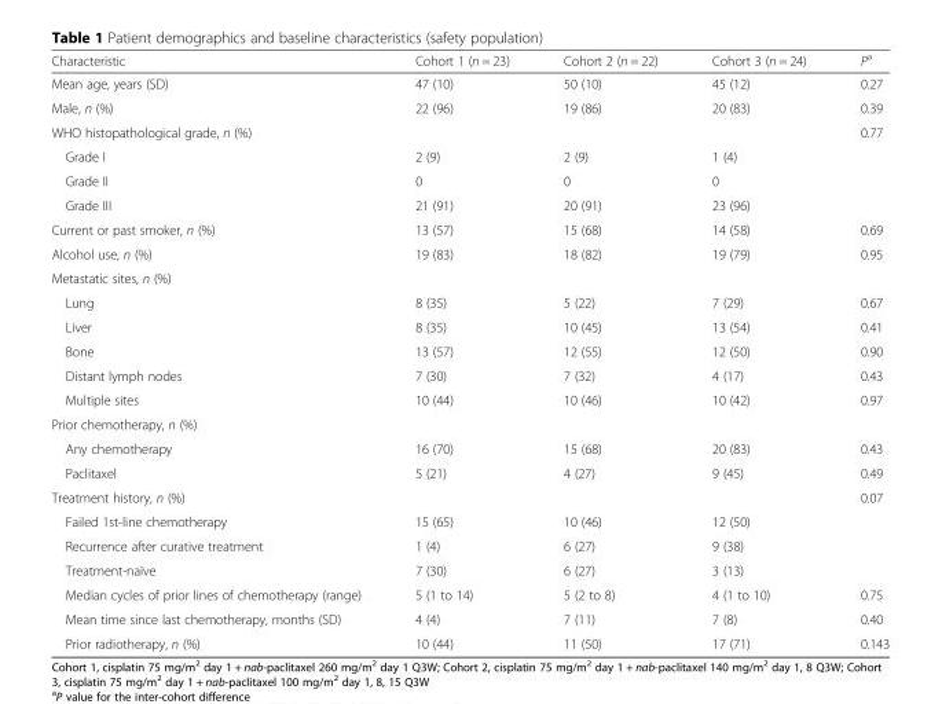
<table><thead><tr><td>Characteristic</td><td>Cohort 1 (n = 23)</td><td>Cohort 2 (n = 22)</td><td>Cohort 3 (n = 24)</td><td>P<sup>a</sup></td></tr></thead><tbody><tr><td>Mean age, years (SD)</td><td>47 (10)</td><td>50 (10)</td><td>45 (12)</td><td>0.27</td></tr><tr><td>Male, n (%)</td><td>22 (96)</td><td>19 (86)</td><td>20 (83)</td><td>0.39</td></tr><tr><td>WHO histopathological grade, n (%)</td><td></td><td></td><td></td><td>0.77</td></tr><tr><td>Grade I</td><td>2 (9)</td><td>2 (9)</td><td>1 (4)</td><td></td></tr><tr><td>Grade II</td><td>0</td><td>0</td><td>0</td><td></td></tr><tr><td>Grade III</td><td>21 (91)</td><td>20 (91)</td><td>23 (96)</td><td></td></tr><tr><td>Current or past smoker, n (%)</td><td>13 (57)</td><td>15 (68)</td><td>14 (58)</td><td>0.69</td></tr><tr><td>Alcohol use, n (%)</td><td>19 (83)</td><td>18 (82)</td><td>19 (79)</td><td>0.95</td></tr><tr><td colspan="5">Metastatic sites, n (%)</td></tr><tr><td>Lung</td><td>8 (35)</td><td>5 (22)</td><td>7 (29)</td><td>0.67</td></tr><tr><td>Liver</td><td>8 (35)</td><td>10 (45)</td><td>13 (54)</td><td>0.41</td></tr><tr><td>Bone</td><td>13 (57)</td><td>12 (55)</td><td>12 (50)</td><td>0.90</td></tr><tr><td>Distant lymph nodes</td><td>7 (30)</td><td>7 (32)</td><td>4 (17)</td><td>0.43</td></tr><tr><td>Multiple sites</td><td>10 (44)</td><td>10 (46)</td><td>10 (42)</td><td>0.97</td></tr><tr><td colspan="5">Prior chemotherapy, n (%)</td></tr><tr><td>Any chemotherapy</td><td>16 (70)</td><td>15 (68)</td><td>20 (83)</td><td>0.43</td></tr><tr><td>Paclitaxel</td><td>5 (21)</td><td>4 (27)</td><td>9 (45)</td><td>0.49</td></tr><tr><td>Treatment history, n (%)</td><td></td><td></td><td></td><td>0.07</td></tr><tr><td>Failed 1st-line chemotherapy</td><td>15 (65)</td><td>10 (46)</td><td>12 (50)</td><td></td></tr><tr><td>Recurrence after curative treatment</td><td>1 (4)</td><td>6 (27)</td><td>9 (38)</td><td></td></tr><tr><td>Treatment-naïve</td><td>7 (30)</td><td>6 (27)</td><td>3 (13)</td><td></td></tr><tr><td>Median cycles of prior lines of chemotherapy (range)</td><td>5 (1 to 14)</td><td>5 (2 to 8)</td><td>4 (1 to 10)</td><td>0.75</td></tr><tr><td>Mean time since last chemotherapy, months (SD)</td><td>4 (4)</td><td>7 (11)</td><td>7 (8)</td><td>0.40</td></tr><tr><td>Prior radiotherapy, n (%)</td><td>10 (44)</td><td>11 (50)</td><td>17 (71)</td><td>0.143</td></tr></tbody></table>